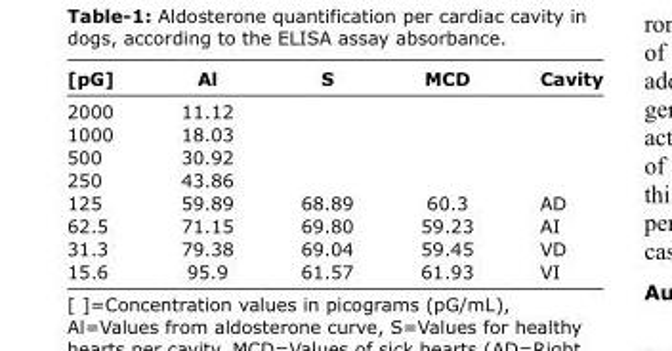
<table><thead><tr><td>[pG]</td><td>Al</td><td>S</td><td>MCD</td><td>Cavity</td></tr></thead><tbody><tr><td>2000</td><td>11.12</td><td></td><td></td><td></td></tr><tr><td>1000</td><td>18.03</td><td></td><td></td><td></td></tr><tr><td>500</td><td>30.92</td><td></td><td></td><td></td></tr><tr><td>250</td><td>43.86</td><td></td><td></td><td></td></tr><tr><td>125</td><td>59.89</td><td>68.89</td><td>60.3</td><td>AD</td></tr><tr><td>62.5</td><td>71.15</td><td>69.80</td><td>59.23</td><td>AI</td></tr><tr><td>31.3</td><td>79.38</td><td>69.04</td><td>59.45</td><td>VD</td></tr><tr><td>15.6</td><td>95.9</td><td>61.57</td><td>61.93</td><td>VI</td></tr></tbody></table>